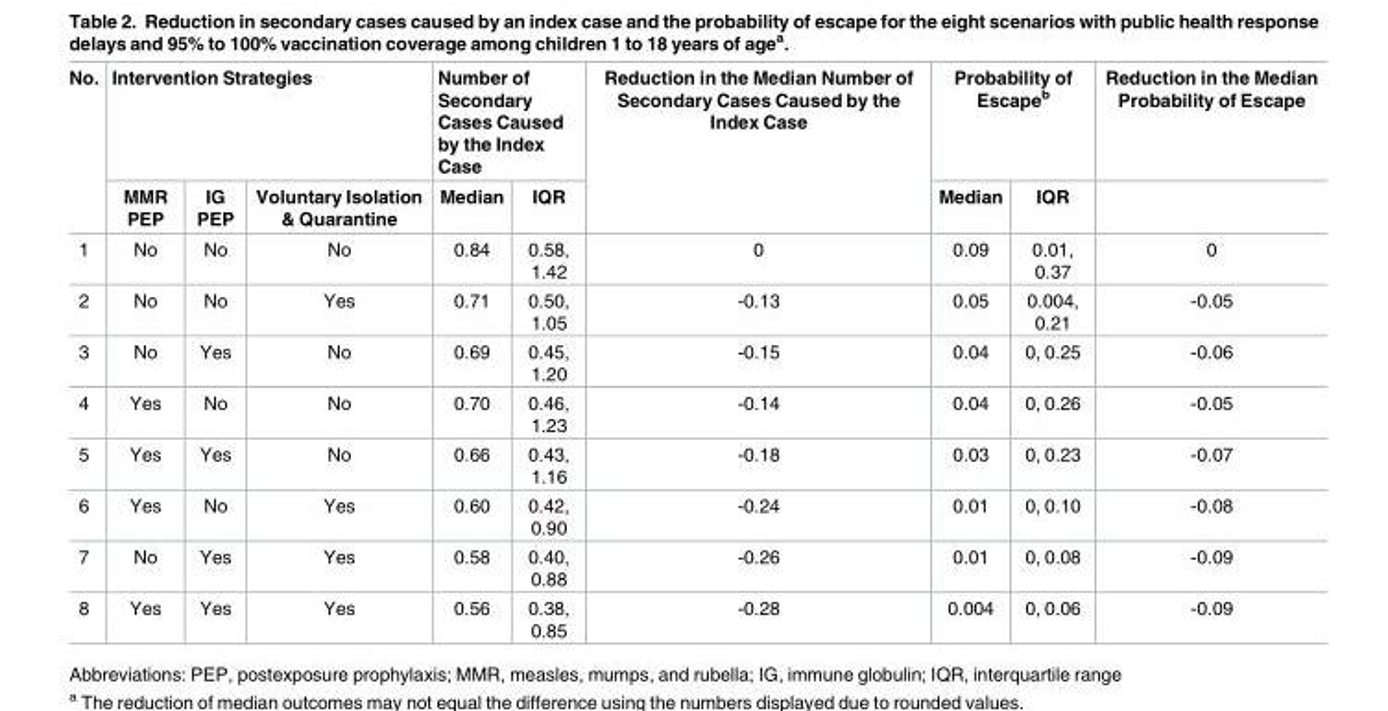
<table><thead><tr><td rowspan="2">No.</td><td colspan="3">Intervention Strategies</td><td colspan="2">Number of Secondary Cases Caused by the Index Case</td><td rowspan="2">Reduction in the Median Number of Secondary Cases Caused by the Index Case</td><td colspan="2">Probability of Escape<sup>b</sup></td><td rowspan="2">Reduction in the Median Probability of Escape</td></tr><tr><td>MMR PEP</td><td>IG PEP</td><td>Voluntary Isolation &amp; Quarantine</td><td>Median</td><td>IQR</td><td>Median</td><td>IQR</td></tr></thead><tbody><tr><td>1</td><td>No</td><td>No</td><td>No</td><td>0.84</td><td>0.58, 1.42</td><td>0</td><td>0.09</td><td>0.01, 0.37</td><td>0</td></tr><tr><td>2</td><td>No</td><td>No</td><td>Yes</td><td>0.71</td><td>0.50, 1.05</td><td>-0.13</td><td>0.05</td><td>0.004, 0.21</td><td>-0.05</td></tr><tr><td>3</td><td>No</td><td>Yes</td><td>No</td><td>0.69</td><td>0.45, 1.20</td><td>-0.15</td><td>0.04</td><td>0, 0.25</td><td>-0.06</td></tr><tr><td>4</td><td>Yes</td><td>No</td><td>No</td><td>0.70</td><td>0.46, 1.23</td><td>-0.14</td><td>0.04</td><td>0, 0.26</td><td>-0.05</td></tr><tr><td>5</td><td>Yes</td><td>Yes</td><td>No</td><td>0.66</td><td>0.43, 1.16</td><td>-0.18</td><td>0.03</td><td>0, 0.23</td><td>-0.07</td></tr><tr><td>6</td><td>Yes</td><td>No</td><td>Yes</td><td>0.60</td><td>0.42, 0.90</td><td>-0.24</td><td>0.01</td><td>0, 0.10</td><td>-0.08</td></tr><tr><td>7</td><td>No</td><td>Yes</td><td>Yes</td><td>0.58</td><td>0.40, 0.88</td><td>-0.26</td><td>0.01</td><td>0, 0.08</td><td>-0.09</td></tr><tr><td>8</td><td>Yes</td><td>Yes</td><td>Yes</td><td>0.56</td><td>0.38, 0.85</td><td>-0.28</td><td>0.004</td><td>0, 0.06</td><td>-0.09</td></tr></tbody></table>